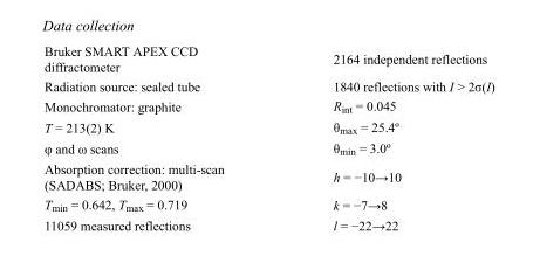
<table><tbody><tr><td>Bruker SMART APEX CCD diffractometer</td><td>2164 independent reflections</td></tr><tr><td>Radiation source: sealed tube</td><td>1840 reflections with I &gt; 2σ(I)</td></tr><tr><td>Monochromator: graphite</td><td>R<sub>int</sub> = 0.045</td></tr><tr><td>T = 213(2) K</td><td>θ<sub>max</sub> = 25.4º</td></tr><tr><td>φ and ω scans</td><td>θ<sub>min</sub> = 3.0º</td></tr><tr><td>Absorption correction: multi-scan (SADABS; Bruker, 2000)</td><td>h = −10→10</td></tr><tr><td>T<sub>min</sub> = 0.642, T<sub>max</sub> = 0.719</td><td>k = −7→8</td></tr><tr><td>11059 measured reflections</td><td>l = −22→22</td></tr></tbody></table>